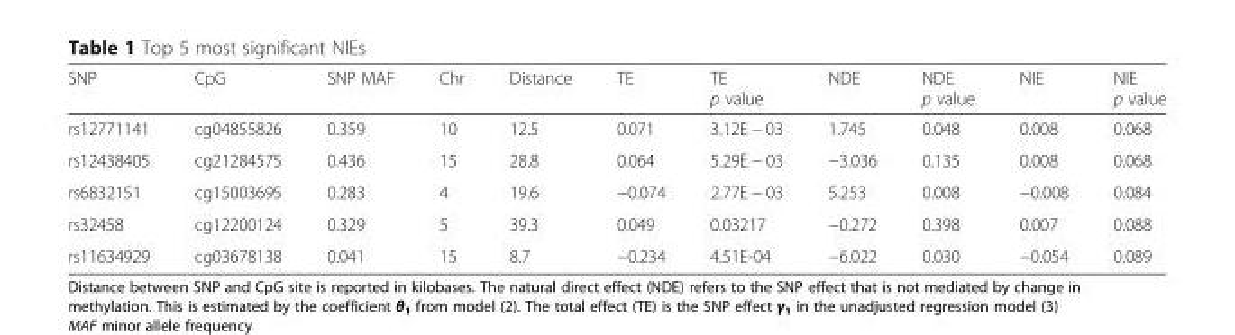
<table><thead><tr><td>SNP</td><td>CpG</td><td>SNP MAF</td><td>Chr</td><td>Distance</td><td>TE</td><td>TE p value</td><td>NDE</td><td>NDE p value</td><td>NIE</td><td>NIE p value</td></tr></thead><tbody><tr><td>rs12771141</td><td>cg04855826</td><td>0.359</td><td>10</td><td>12.5</td><td>0.071</td><td>3.12E − 03</td><td>1.745</td><td>0.048</td><td>0.008</td><td>0.068</td></tr><tr><td>rs12438405</td><td>cg21284575</td><td>0.436</td><td>15</td><td>28.8</td><td>0.064</td><td>5.29E − 03</td><td>−3.036</td><td>0.135</td><td>0.008</td><td>0.068</td></tr><tr><td>rs6832151</td><td>cg15003695</td><td>0.283</td><td>4</td><td>19.6</td><td>−0.074</td><td>2.77E − 03</td><td>5.253</td><td>0.008</td><td>−0.008</td><td>0.084</td></tr><tr><td>rs32458</td><td>cg12200124</td><td>0.329</td><td>5</td><td>39.3</td><td>0.049</td><td>0.03217</td><td>−0.272</td><td>0.398</td><td>0.007</td><td>0.088</td></tr><tr><td>rs11634929</td><td>cg03678138</td><td>0.041</td><td>15</td><td>8.7</td><td>−0.234</td><td>4.51E-04</td><td>−6.022</td><td>0.030</td><td>−0.054</td><td>0.089</td></tr></tbody></table>